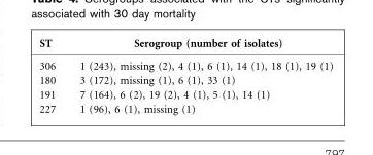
<table><thead><tr><td>ST</td><td>Serogroup (number of isolates)</td></tr></thead><tbody><tr><td>306</td><td>1 (243), missing (2), 4 (1), 6 (1), 14 (1), 18 (1), 19 (1)</td></tr><tr><td>180</td><td>3 (172), missing (1), 6 (1), 33 (1)</td></tr><tr><td>191</td><td>7 (164), 6 (2), 19 (2), 4 (1), 5 (1), 14 (1)</td></tr><tr><td>227</td><td>1 (96), 6 (1), missing (1)</td></tr></tbody></table>